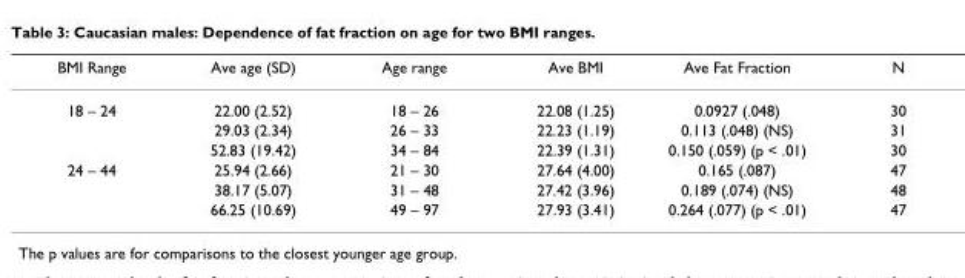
<table><thead><tr><td>BMI Range</td><td>Ave age (SD)</td><td>Age range</td><td>Ave BMI</td><td>Ave Fat Fraction</td><td>N</td></tr></thead><tbody><tr><td rowspan="3">18 – 24</td><td>22.00 (2.52)</td><td>18 – 26</td><td>22.08 (1.25)</td><td>0.0927 (.048)</td><td>30</td></tr><tr><td>29.03 (2.34)</td><td>26 – 33</td><td>22.23 (1.19)</td><td>0.113 (.048) (NS)</td><td>31</td></tr><tr><td>52.83 (19.42)</td><td>34 – 84</td><td>22.39 (1.31)</td><td>0.150 (.059) (p &lt; .01)</td><td>30</td></tr><tr><td rowspan="3">24 – 44</td><td>25.94 (2.66)</td><td>21 – 30</td><td>27.64 (4.00)</td><td>0.165 (.087)</td><td>47</td></tr><tr><td>38.17 (5.07)</td><td>31 – 48</td><td>27.42 (3.96)</td><td>0.189 (.074) (NS)</td><td>48</td></tr><tr><td>66.25 (10.69)</td><td>49 – 97</td><td>27.93 (3.41)</td><td>0.264 (.077) (p &lt; .01)</td><td>47</td></tr></tbody></table>